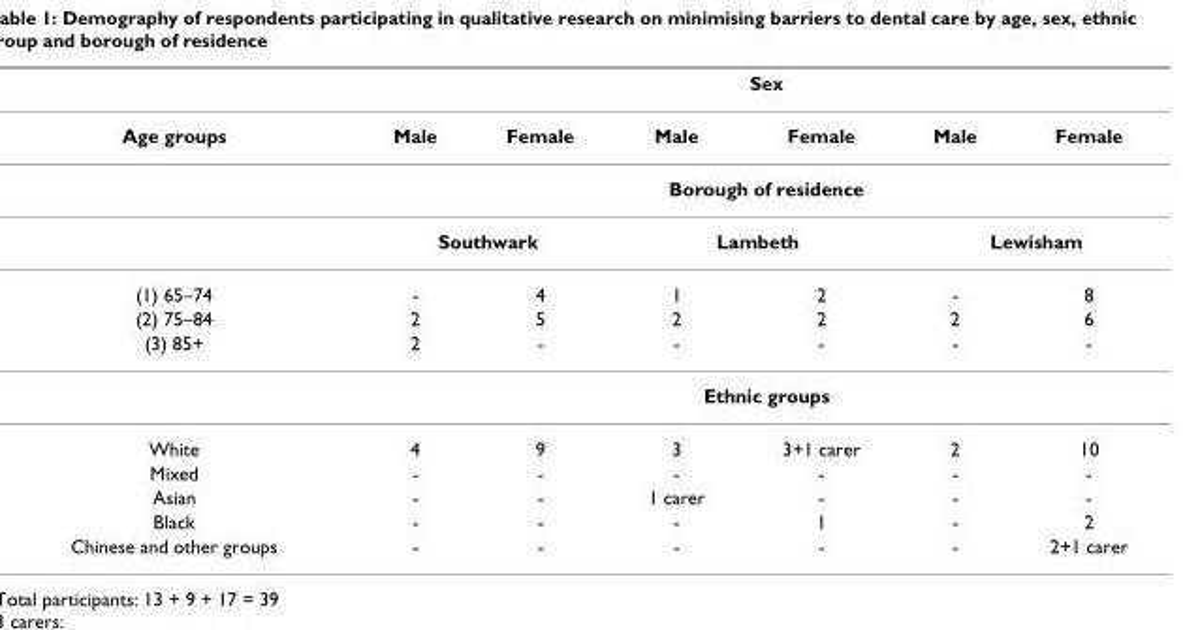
<table><thead><tr><td rowspan="2">Age groups</td><td colspan="6">Sex</td></tr><tr><td>Male</td><td>Female</td><td>Male</td><td>Female</td><td>Male</td><td>Female</td></tr></thead><tbody><tr><td></td><td colspan="6">Borough of residence</td></tr><tr><td></td><td colspan="2">Southwark</td><td colspan="2">Lambeth</td><td colspan="2">Lewisham</td></tr><tr><td>(1) 65–74</td><td>-</td><td>4</td><td>1</td><td>2</td><td>-</td><td>8</td></tr><tr><td>(2) 75–84</td><td>2</td><td>5</td><td>2</td><td>2</td><td>2</td><td>6</td></tr><tr><td rowspan="2">(3) 85+</td><td>2</td><td>-</td><td>-</td><td>-</td><td>-</td><td>-</td></tr><tr><td colspan="6">Ethnic groups</td></tr><tr><td>White</td><td>4</td><td>9</td><td>3</td><td>3+1 carer</td><td>2</td><td>10</td></tr><tr><td>Mixed</td><td>-</td><td>-</td><td>-</td><td>-</td><td>-</td><td>-</td></tr><tr><td>Asian</td><td>-</td><td>-</td><td>1 carer</td><td>-</td><td>-</td><td>-</td></tr><tr><td>Black</td><td>-</td><td>-</td><td>-</td><td>1</td><td>-</td><td>2</td></tr><tr><td>Chinese and other groups</td><td>-</td><td>-</td><td>-</td><td>-</td><td>-</td><td>2+1 carer</td></tr></tbody></table>